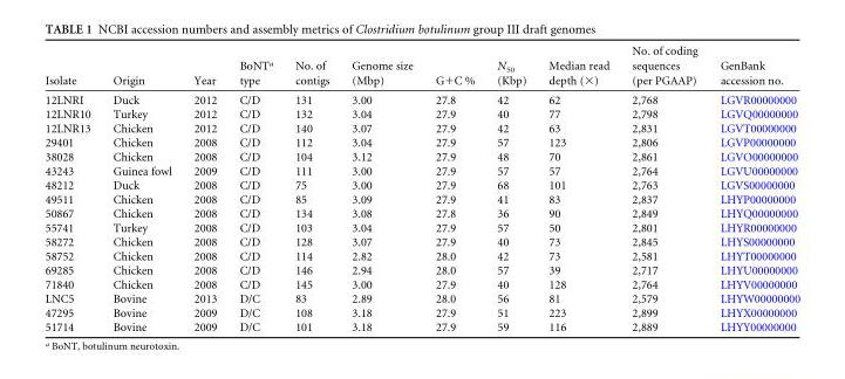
<table><thead><tr><td>Isolate</td><td>Origin</td><td>Year</td><td>BoNT<sup>a</sup> type</td><td>No. of contigs</td><td>Genome size (Mbp)</td><td>G+C %</td><td>N<sub>50</sub> (Kbp)</td><td>Median read depth (×)</td><td>No. of coding sequences (per PGAAP)</td><td>GenBank accession no.</td></tr></thead><tbody><tr><td>12LNRI</td><td>Duck</td><td>2012</td><td>C/D</td><td>131</td><td>3.00</td><td>27.8</td><td>42</td><td>62</td><td>2,768</td><td>LGVR00000000</td></tr><tr><td>12LNR10</td><td>Turkey</td><td>2012</td><td>C/D</td><td>132</td><td>3.04</td><td>27.9</td><td>40</td><td>77</td><td>2,798</td><td>LGVQ00000000</td></tr><tr><td>12LNR13</td><td>Chicken</td><td>2012</td><td>C/D</td><td>140</td><td>3.07</td><td>27.9</td><td>42</td><td>63</td><td>2,831</td><td>LGVT00000000</td></tr><tr><td>29401</td><td>Chicken</td><td>2008</td><td>C/D</td><td>112</td><td>3.04</td><td>27.9</td><td>57</td><td>123</td><td>2,806</td><td>LGVP00000000</td></tr><tr><td>38028</td><td>Chicken</td><td>2008</td><td>C/D</td><td>104</td><td>3.12</td><td>27.9</td><td>48</td><td>70</td><td>2,861</td><td>LGVO00000000</td></tr><tr><td>43243</td><td>Guinea fowl</td><td>2009</td><td>C/D</td><td>111</td><td>3.00</td><td>27.9</td><td>57</td><td>57</td><td>2,764</td><td>LGVU00000000</td></tr><tr><td>48212</td><td>Duck</td><td>2008</td><td>C/D</td><td>75</td><td>3.00</td><td>27.9</td><td>68</td><td>101</td><td>2,763</td><td>LGVS00000000</td></tr><tr><td>49511</td><td>Chicken</td><td>2008</td><td>C/D</td><td>85</td><td>3.09</td><td>27.9</td><td>41</td><td>83</td><td>2,837</td><td>LHYP00000000</td></tr><tr><td>50867</td><td>Chicken</td><td>2008</td><td>C/D</td><td>134</td><td>3.08</td><td>27.8</td><td>36</td><td>90</td><td>2,849</td><td>LHYQ00000000</td></tr><tr><td>55741</td><td>Turkey</td><td>2008</td><td>C/D</td><td>103</td><td>3.04</td><td>27.9</td><td>57</td><td>50</td><td>2,801</td><td>LHYR00000000</td></tr><tr><td>58272</td><td>Chicken</td><td>2008</td><td>C/D</td><td>128</td><td>3.07</td><td>27.9</td><td>40</td><td>73</td><td>2,845</td><td>LHYS00000000</td></tr><tr><td>58752</td><td>Chicken</td><td>2008</td><td>C/D</td><td>114</td><td>2.82</td><td>28.0</td><td>42</td><td>73</td><td>2,581</td><td>LHYT00000000</td></tr><tr><td>69285</td><td>Chicken</td><td>2008</td><td>C/D</td><td>146</td><td>2.94</td><td>28.0</td><td>57</td><td>39</td><td>2,717</td><td>LHYU00000000</td></tr><tr><td>71840</td><td>Chicken</td><td>2008</td><td>C/D</td><td>145</td><td>3.00</td><td>27.9</td><td>40</td><td>128</td><td>2,764</td><td>LHYV00000000</td></tr><tr><td>LNC5</td><td>Bovine</td><td>2013</td><td>D/C</td><td>83</td><td>2.89</td><td>28.0</td><td>56</td><td>81</td><td>2,579</td><td>LHYW00000000</td></tr><tr><td>47295</td><td>Bovine</td><td>2009</td><td>D/C</td><td>108</td><td>3.18</td><td>27.9</td><td>51</td><td>223</td><td>2,899</td><td>LHYX00000000</td></tr><tr><td>51714</td><td>Bovine</td><td>2009</td><td>D/C</td><td>101</td><td>3.18</td><td>27.9</td><td>59</td><td>116</td><td>2,889</td><td>LHYY00000000</td></tr></tbody></table>